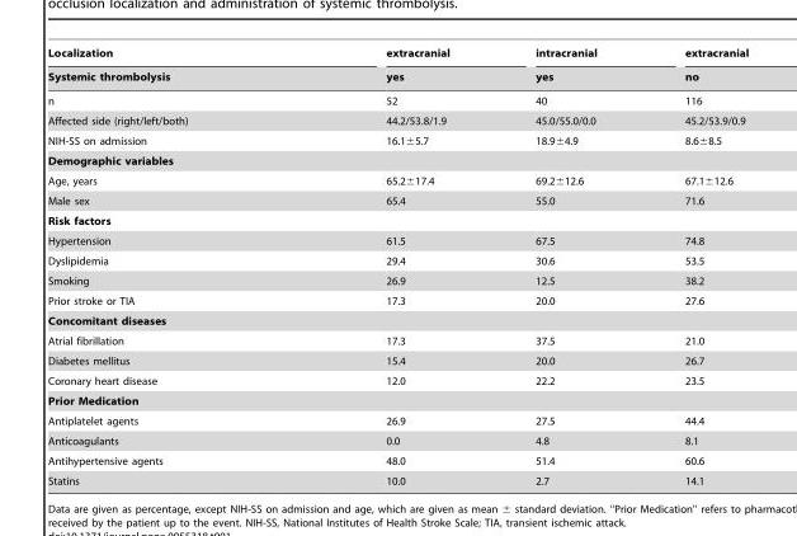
<table><thead><tr><td rowspan="2">Localization Systemic thrombolysis</td><td rowspan="2">extracranial yes</td><td rowspan="2">intracranial yes</td><td rowspan="2">extracranial no</td></tr><tr></tr></thead><tbody><tr><td>n</td><td>52</td><td>40</td><td>116</td></tr><tr><td>Affected side (right/left/both)</td><td>44.2/53.8/1.9</td><td>45.0/55.0/0.0</td><td>45.2/53.9/0.9</td></tr><tr><td>NIH-SS on admission</td><td>16.1±5.7</td><td>18.9±4.9</td><td>8.6±8.5</td></tr><tr><td colspan="4">Demographic variables</td></tr><tr><td>Age, years</td><td>65.2±17.4</td><td>69.2±12.6</td><td>67.1±12.6</td></tr><tr><td>Male sex</td><td>65.4</td><td>55.0</td><td>71.6</td></tr><tr><td colspan="4">Risk factors</td></tr><tr><td>Hypertension</td><td>61.5</td><td>67.5</td><td>74.8</td></tr><tr><td>Dyslipidemia</td><td>29.4</td><td>30.6</td><td>53.5</td></tr><tr><td>Smoking</td><td>26.9</td><td>12.5</td><td>38.2</td></tr><tr><td>Prior stroke or TIA</td><td>17.3</td><td>20.0</td><td>27.6</td></tr><tr><td colspan="4">Concomitant diseases</td></tr><tr><td>Atrial fibrillation</td><td>17.3</td><td>37.5</td><td>21.0</td></tr><tr><td>Diabetes mellitus</td><td>15.4</td><td>20.0</td><td>26.7</td></tr><tr><td>Coronary heart disease</td><td>12.0</td><td>22.2</td><td>23.5</td></tr><tr><td colspan="4">Prior Medication</td></tr><tr><td>Antiplatelet agents</td><td>26.9</td><td>27.5</td><td>44.4</td></tr><tr><td>Anticoagulants</td><td>0.0</td><td>4.8</td><td>8.1</td></tr><tr><td>Antihypertensive agents</td><td>48.0</td><td>51.4</td><td>60.6</td></tr><tr><td>Statins</td><td>10.0</td><td>2.7</td><td>14.1</td></tr></tbody></table>